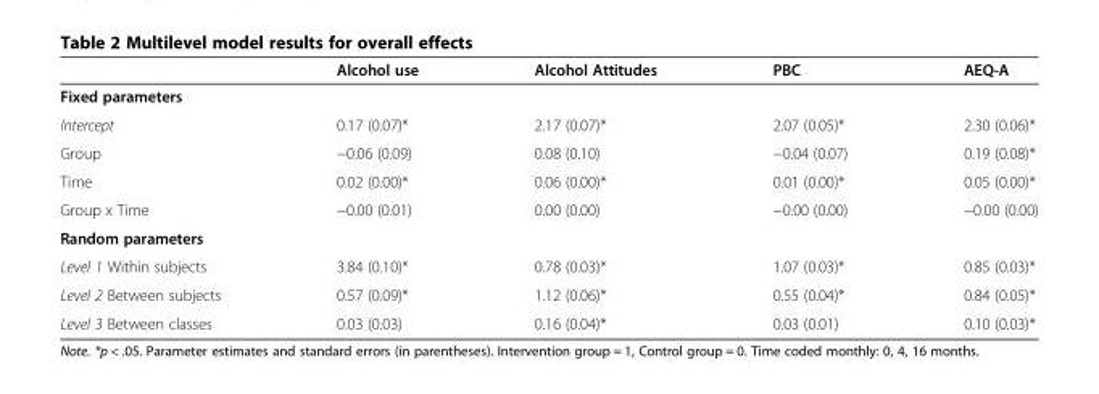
<table><thead><tr><td></td><td>Alcohol use</td><td>Alcohol Attitudes</td><td>PBC</td><td>AEQ-A</td></tr></thead><tbody><tr><td colspan="5">Fixed parameters</td></tr><tr><td>Intercept</td><td>0.17 (0.07)*</td><td>2.17 (0.07)*</td><td>2.07 (0.05)*</td><td>2.30 (0.06)*</td></tr><tr><td>Group</td><td>−0.06 (0.09)</td><td>0.08 (0.10)</td><td>−0.04 (0.07)</td><td>0.19 (0.08)*</td></tr><tr><td>Time</td><td>0.02 (0.00)*</td><td>0.06 (0.00)*</td><td>0.01 (0.00)*</td><td>0.05 (0.00)*</td></tr><tr><td>Group x Time</td><td>−0.00 (0.01)</td><td>0.00 (0.00)</td><td>−0.00 (0.00)</td><td>−0.00 (0.00)</td></tr><tr><td colspan="5">Random parameters</td></tr><tr><td>Level 1 Within subjects</td><td>3.84 (0.10)*</td><td>0.78 (0.03)*</td><td>1.07 (0.03)*</td><td>0.85 (0.03)*</td></tr><tr><td>Level 2 Between subjects</td><td>0.57 (0.09)*</td><td>1.12 (0.06)*</td><td>0.55 (0.04)*</td><td>0.84 (0.05)*</td></tr><tr><td>Level 3 Between classes</td><td>0.03 (0.03)</td><td>0.16 (0.04)*</td><td>0.03 (0.01)</td><td>0.10 (0.03)*</td></tr></tbody></table>